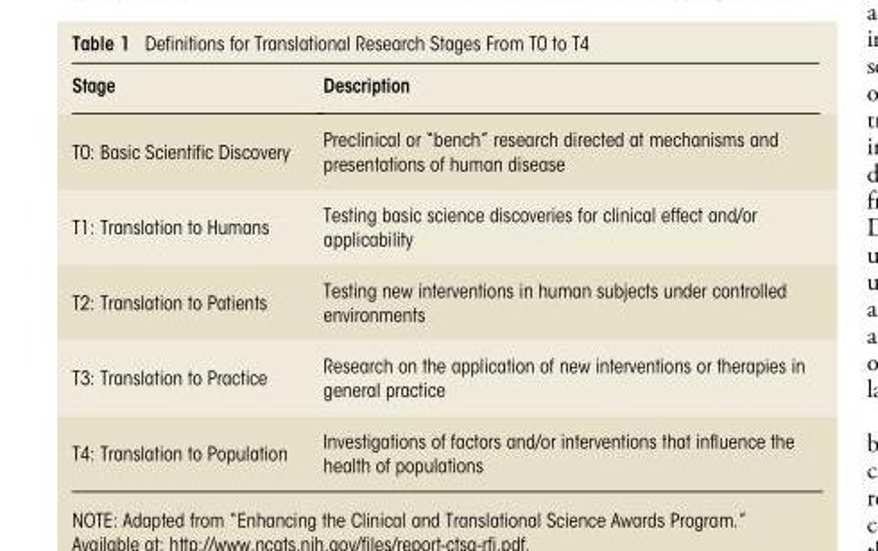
<table><thead><tr><td>Stage</td><td>Description</td></tr></thead><tbody><tr><td>T0: Basic Scientific Discovery</td><td>Preclinical or “bench” research directed at mechanisms and presentations of human disease</td></tr><tr><td>T1: Translation to Humans</td><td>Testing basic science discoveries for clinical effect and/or applicability</td></tr><tr><td>T2: Translation to Patients</td><td>Testing new interventions in human subjects under controlled environments</td></tr><tr><td>T3: Translation to Practice</td><td>Research on the application of new interventions or therapies in general practice</td></tr><tr><td>T4: Translation to Population</td><td>Investigations of factors and/or interventions that influence the health of populations</td></tr></tbody></table>